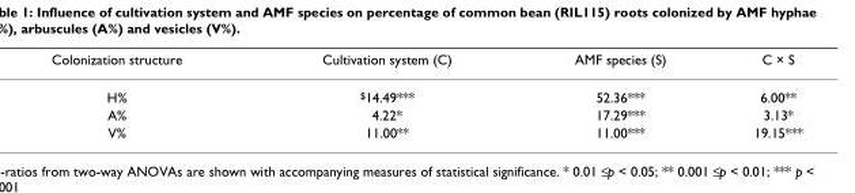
<table><thead><tr><td>Colonization structure</td><td>Cultivation system (C)</td><td>AMF species (S)</td><td>C × S</td></tr></thead><tbody><tr><td>H%</td><td><sup>$</sup>14.49***</td><td>52.36***</td><td>6.00**</td></tr><tr><td>A%</td><td>4.22*</td><td>17.29***</td><td>3.13*</td></tr><tr><td>V%</td><td>11.00**</td><td>11.00***</td><td>19.15***</td></tr></tbody></table>